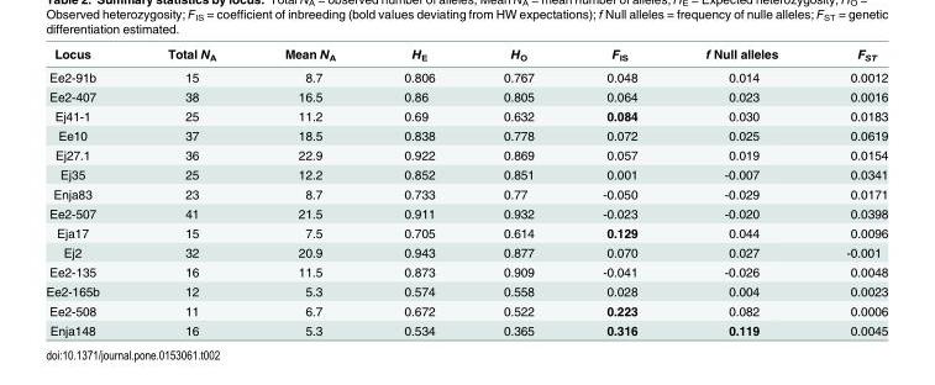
<table><thead><tr><td>Locus</td><td>Total N<sub>A</sub></td><td>Mean N<sub>A</sub></td><td>H<sub>E</sub></td><td>H<sub>O</sub></td><td>F<sub>IS</sub></td><td>f Null alleles</td><td>F<sub>ST</sub></td></tr></thead><tbody><tr><td>Ee2-91b</td><td>15</td><td>8.7</td><td>0.806</td><td>0.767</td><td>0.048</td><td>0.014</td><td>0.0012</td></tr><tr><td>Ee2-407</td><td>38</td><td>16.5</td><td>0.86</td><td>0.805</td><td>0.064</td><td>0.023</td><td>0.0016</td></tr><tr><td>Ej41-1</td><td>25</td><td>11.2</td><td>0.69</td><td>0.632</td><td>0.084</td><td>0.030</td><td>0.0183</td></tr><tr><td>Ee10</td><td>37</td><td>18.5</td><td>0.838</td><td>0.778</td><td>0.072</td><td>0.025</td><td>0.0619</td></tr><tr><td>Ej27.1</td><td>36</td><td>22.9</td><td>0.922</td><td>0.869</td><td>0.057</td><td>0.019</td><td>0.0154</td></tr><tr><td>Ej35</td><td>25</td><td>12.2</td><td>0.852</td><td>0.851</td><td>0.001</td><td>-0.007</td><td>0.0341</td></tr><tr><td>Enja83</td><td>23</td><td>8.7</td><td>0.733</td><td>0.77</td><td>-0.050</td><td>-0.029</td><td>0.0171</td></tr><tr><td>Ee2-507</td><td>41</td><td>21.5</td><td>0.911</td><td>0.932</td><td>-0.023</td><td>-0.020</td><td>0.0398</td></tr><tr><td>Eja17</td><td>15</td><td>7.5</td><td>0.705</td><td>0.614</td><td>0.129</td><td>0.044</td><td>0.0096</td></tr><tr><td>Ej2</td><td>32</td><td>20.9</td><td>0.943</td><td>0.877</td><td>0.070</td><td>0.027</td><td>-0.001</td></tr><tr><td>Ee2-135</td><td>16</td><td>11.5</td><td>0.873</td><td>0.909</td><td>-0.041</td><td>-0.026</td><td>0.0048</td></tr><tr><td>Ee2-165b</td><td>12</td><td>5.3</td><td>0.574</td><td>0.558</td><td>0.028</td><td>0.004</td><td>0.0023</td></tr><tr><td>Ee2-508</td><td>11</td><td>6.7</td><td>0.672</td><td>0.522</td><td>0.223</td><td>0.082</td><td>0.0006</td></tr><tr><td>Enja148</td><td>16</td><td>5.3</td><td>0.534</td><td>0.365</td><td>0.316</td><td>0.119</td><td>0.0045</td></tr></tbody></table>